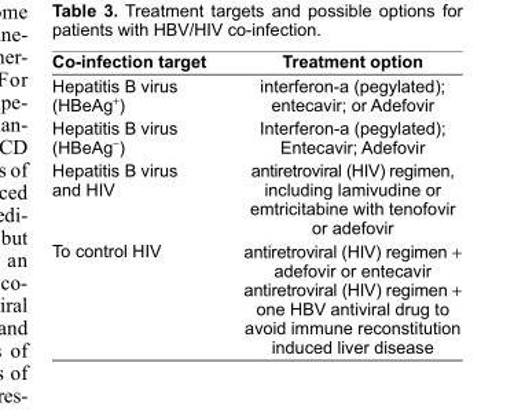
<table><thead><tr><td>Co-infection target</td><td>Treatment option</td></tr></thead><tbody><tr><td>Hepatitis B virus (HBeAg<sup>+</sup>)</td><td>interferon-а (pegylated); entecavir; or Adefovir</td></tr><tr><td>Hepatitis B virus (HBeAg<sup>−</sup>)</td><td>Interferon-а (pegylated); Entecavir; Adefovir</td></tr><tr><td>Hepatitis B virus and HIV</td><td>antiretroviral (HIV) regimen, including lamivudine or emtricitabine with tenofovir or adefovir</td></tr><tr><td>To control HIV</td><td>antiretroviral (HIV) regimen + adefovir or entecavir antiretroviral (HIV) regimen + one HBV antiviral drug to avoid immune reconstitution induced liver disease</td></tr></tbody></table>